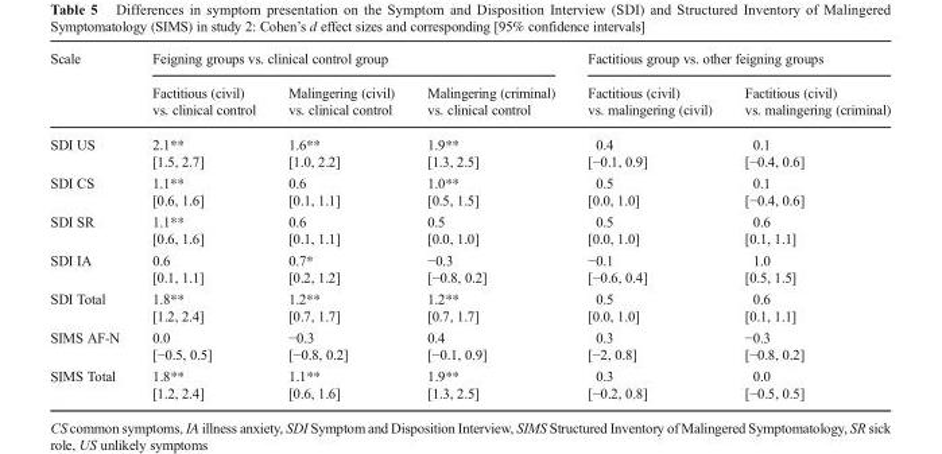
<table><thead><tr><td rowspan="2">Scale</td><td colspan="3">Feigning groups vs. clinical control group</td><td colspan="2">Factitious group vs. other feigning groups</td></tr><tr><td>Factitious (civil) vs. clinical control</td><td>Malingering (civil) vs. clinical control</td><td>Malingering (criminal) vs. clinical control</td><td>Factitious (civil) vs. malingering (civil)</td><td>Factitious (civil) vs. malingering (criminal)</td></tr></thead><tbody><tr><td>SDI US</td><td>2.1** [1.5, 2.7]</td><td>1.6** [1.0, 2.2]</td><td>1.9** [1.3, 2.5]</td><td>0.4 [−0.1, 0.9]</td><td>0.1 [−0.4, 0.6]</td></tr><tr><td>SDI CS</td><td>1.1** [0.6, 1.6]</td><td>0.6 [0.1, 1.1]</td><td>1.0** [0.5, 1.5]</td><td>0.5 [0.0, 1.0]</td><td>0.1 [−0.4, 0.6]</td></tr><tr><td>SDI SR</td><td>1.1** [0.6, 1.6]</td><td>0.6 [0.1, 1.1]</td><td>0.5 [0.0, 1.0]</td><td>0.5 [0.0, 1.0]</td><td>0.6 [0.1, 1.1]</td></tr><tr><td>SDI IA</td><td>0.6 [0.1, 1.1]</td><td>0.7* [0.2, 1.2]</td><td>−0.3 [−0.8, 0.2]</td><td>−0.1 [−0.6, 0.4]</td><td>1.0 [0.5, 1.5]</td></tr><tr><td>SDI Total</td><td>1.8** [1.2, 2.4]</td><td>1.2** [0.7, 1.7]</td><td>1.2** [0.7, 1.7]</td><td>0.5 [0.0, 1.0]</td><td>0.6 [0.1, 1.1]</td></tr><tr><td>SIMS AF-N</td><td>0.0 [−0.5, 0.5]</td><td>−0.3 [−0.8, 0.2]</td><td>0.4 [−0.1, 0.9]</td><td>0.3 [−2, 0.8]</td><td>−0.3 [−0.8, 0.2]</td></tr><tr><td>SIMS Total</td><td>1.8** [1.2, 2.4]</td><td>1.1** [0.6, 1.6]</td><td>1.9** [1.3, 2.5]</td><td>0.3 [−0.2, 0.8]</td><td>0.0 [−0.5, 0.5]</td></tr></tbody></table>